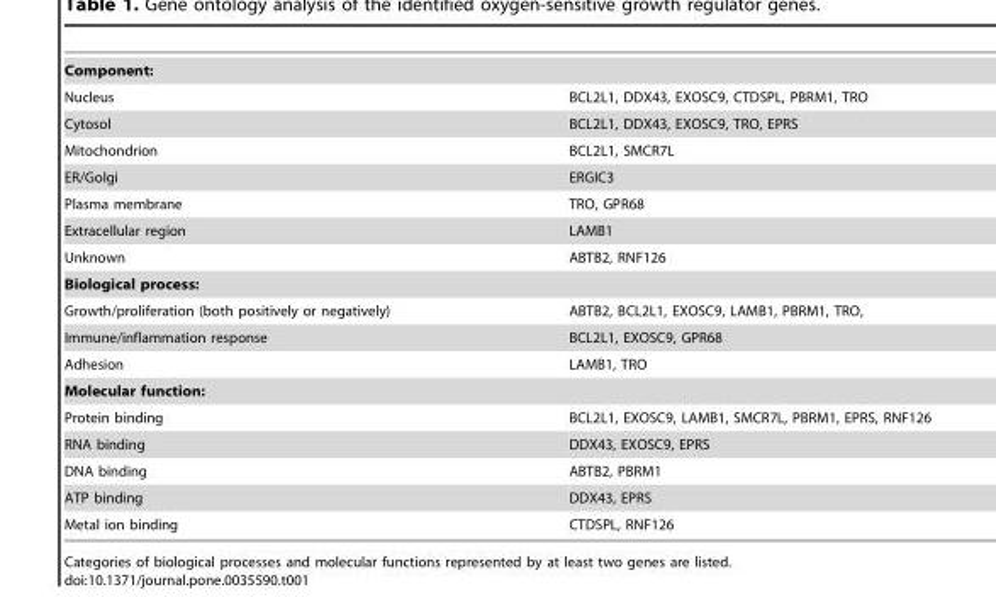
<table><tbody><tr><td colspan="2">Component:</td></tr><tr><td>Nucleus</td><td>BCL2L1, DDX43, EXOSC9, CTDSPL, PBRM1, TRO</td></tr><tr><td>Cytosol</td><td>BCL2L1, DDX43, EXOSC9, TRO, EPRS</td></tr><tr><td>Mitochondrion</td><td>BCL2L1, SMCR7L</td></tr><tr><td>ER/Golgi</td><td>ERGIC3</td></tr><tr><td>Plasma membrane</td><td>TRO, GPR68</td></tr><tr><td>Extracellular region</td><td>LAMB1</td></tr><tr><td>Unknown</td><td>ABTB2, RNF126</td></tr><tr><td colspan="2">Biological process:</td></tr><tr><td>Growth/proliferation (both positively or negatively)</td><td>ABTB2, BCL2L1, EXOSC9, LAMB1, PBRM1, TRO,</td></tr><tr><td>Immune/inflammation response</td><td>BCL2L1, EXOSC9, GPR68</td></tr><tr><td>Adhesion</td><td>LAMB1, TRO</td></tr><tr><td colspan="2">Molecular function:</td></tr><tr><td>Protein binding</td><td>BCL2L1, EXOSC9, LAMB1, SMCR7L, PBRM1, EPRS, RNF126</td></tr><tr><td>RNA binding</td><td>DDX43, EXOSC9, EPRS</td></tr><tr><td>DNA binding</td><td>ABTB2, PBRM1</td></tr><tr><td>ATP binding</td><td>DDX43, EPRS</td></tr><tr><td>Metal ion binding</td><td>CTDSPL, RNF126</td></tr></tbody></table>